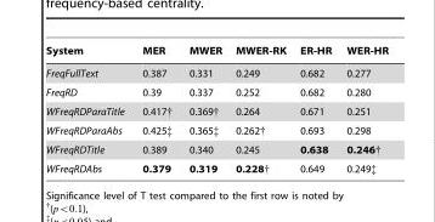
<table><thead><tr><td>System</td><td>MER</td><td>MWER</td><td>MWER-RK</td><td>ER-HR</td><td>WER-HR</td></tr></thead><tbody><tr><td>FreqFullText</td><td>0.387</td><td>0.331</td><td>0.249</td><td>0.682</td><td>0.277</td></tr><tr><td>FreqRD</td><td>0.39</td><td>0.337</td><td>0.252</td><td>0.682</td><td>0.280</td></tr><tr><td>WFreqRDParaTitle</td><td>0.417†</td><td>0.369†</td><td>0.264</td><td>0.671</td><td>0.251</td></tr><tr><td>WFreqRDParaAbs</td><td>0.425‡</td><td>0.365‡</td><td>0.262†</td><td>0.693</td><td>0.298</td></tr><tr><td>WFreqRDTitle</td><td>0.389</td><td>0.340</td><td>0.245</td><td>0.638</td><td>0.246†</td></tr><tr><td>WFreqRDAbs</td><td>0.379</td><td>0.319</td><td>0.228†</td><td>0.649</td><td>0.249‡</td></tr></tbody></table>